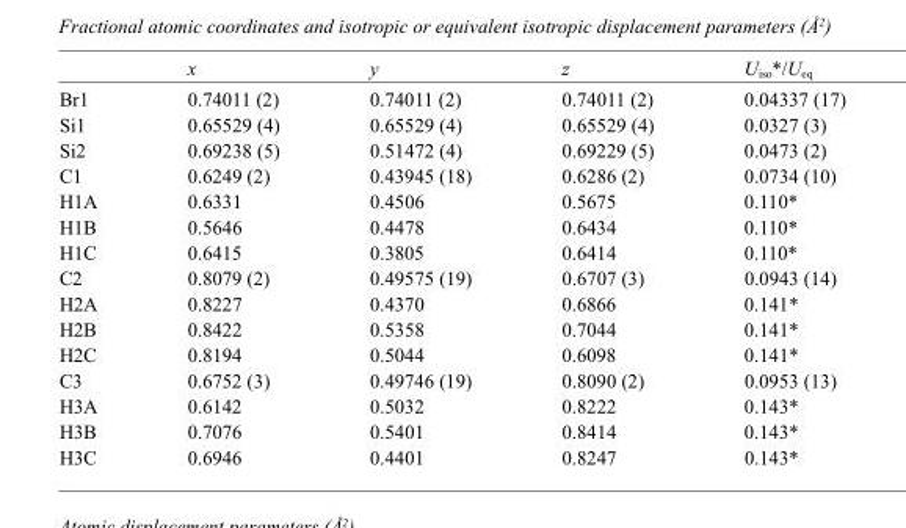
<table><thead><tr><td></td><td>x</td><td>y</td><td>z</td><td>U<sub>iso</sub>*/U<sub>eq</sub></td></tr></thead><tbody><tr><td>Br1</td><td>0.74011 (2)</td><td>0.74011 (2)</td><td>0.74011 (2)</td><td>0.04337 (17)</td></tr><tr><td>Si1</td><td>0.65529 (4)</td><td>0.65529 (4)</td><td>0.65529 (4)</td><td>0.0327 (3)</td></tr><tr><td>Si2</td><td>0.69238 (5)</td><td>0.51472 (4)</td><td>0.69229 (5)</td><td>0.0473 (2)</td></tr><tr><td>C1</td><td>0.6249 (2)</td><td>0.43945 (18)</td><td>0.6286 (2)</td><td>0.0734 (10)</td></tr><tr><td>H1A</td><td>0.6331</td><td>0.4506</td><td>0.5675</td><td>0.110*</td></tr><tr><td>H1B</td><td>0.5646</td><td>0.4478</td><td>0.6434</td><td>0.110*</td></tr><tr><td>H1C</td><td>0.6415</td><td>0.3805</td><td>0.6414</td><td>0.110*</td></tr><tr><td>C2</td><td>0.8079 (2)</td><td>0.49575 (19)</td><td>0.6707 (3)</td><td>0.0943 (14)</td></tr><tr><td>H2A</td><td>0.8227</td><td>0.4370</td><td>0.6866</td><td>0.141*</td></tr><tr><td>H2B</td><td>0.8422</td><td>0.5358</td><td>0.7044</td><td>0.141*</td></tr><tr><td>H2C</td><td>0.8194</td><td>0.5044</td><td>0.6098</td><td>0.141*</td></tr><tr><td>C3</td><td>0.6752 (3)</td><td>0.49746 (19)</td><td>0.8090 (2)</td><td>0.0953 (13)</td></tr><tr><td>H3A</td><td>0.6142</td><td>0.5032</td><td>0.8222</td><td>0.143*</td></tr><tr><td>H3B</td><td>0.7076</td><td>0.5401</td><td>0.8414</td><td>0.143*</td></tr><tr><td>H3C</td><td>0.6946</td><td>0.4401</td><td>0.8247</td><td>0.143*</td></tr></tbody></table>